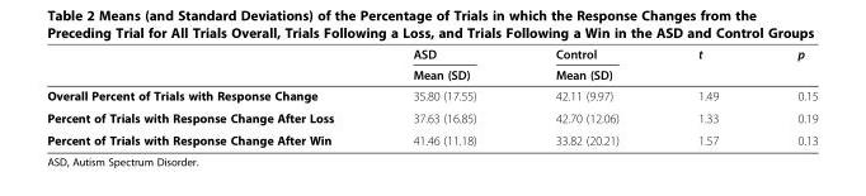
<table><thead><tr><td rowspan="2"></td><td rowspan="2">ASD Mean (SD)</td><td rowspan="2">Control Mean (SD)</td><td rowspan="2">t</td><td rowspan="2">p</td></tr><tr></tr></thead><tbody><tr><td>Overall Percent of Trials with Response Change</td><td>35.80 (17.55)</td><td>42.11 (9.97)</td><td>1.49</td><td>0.15</td></tr><tr><td>Percent of Trials with Response Change After Loss</td><td>37.63 (16.85)</td><td>42.70 (12.06)</td><td>1.33</td><td>0.19</td></tr><tr><td>Percent of Trials with Response Change After Win</td><td>41.46 (11.18)</td><td>33.82 (20.21)</td><td>1.57</td><td>0.13</td></tr></tbody></table>